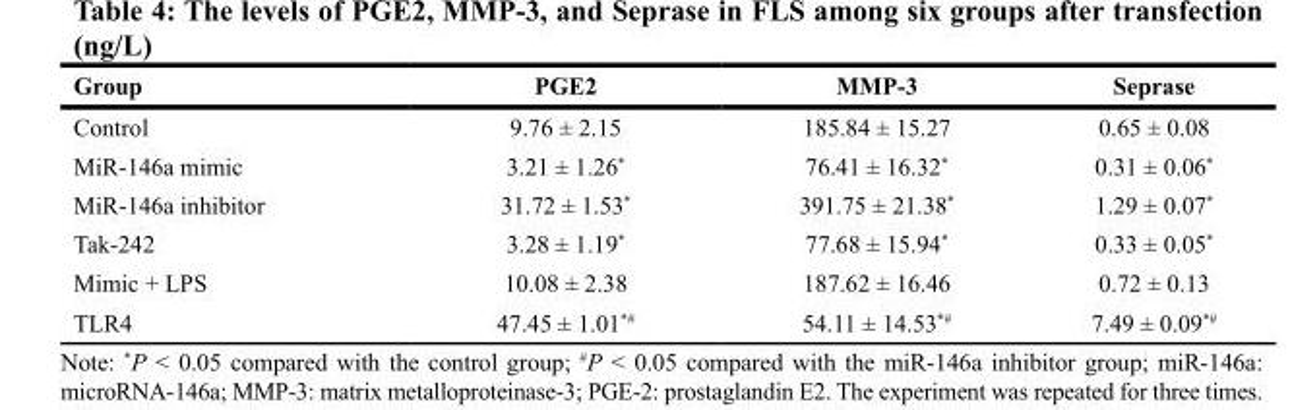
<table><thead><tr><td>Group</td><td>PGE2</td><td>MMP-3</td><td>Seprase</td></tr></thead><tbody><tr><td>Control</td><td>9.76 ± 2.15</td><td>185.84 ± 15.27</td><td>0.65 ± 0.08</td></tr><tr><td>MiR-146a mimic</td><td>3.21 ± 1.26*</td><td>76.41 ± 16.32*</td><td>0.31 ± 0.06*</td></tr><tr><td>MiR-146a inhibitor</td><td>31.72 ± 1.53*</td><td>391.75 ± 21.38*</td><td>1.29 ± 0.07*</td></tr><tr><td>Tak-242</td><td>3.28 ± 1.19*</td><td>77.68 ± 15.94*</td><td>0.33 ± 0.05*</td></tr><tr><td>Mimic + LPS</td><td>10.08 ± 2.38</td><td>187.62 ± 16.46</td><td>0.72 ± 0.13</td></tr><tr><td>TLR4</td><td>47.45 ± 1.01<sup>*#</sup></td><td>54.11 ± 14.53<sup>*#</sup></td><td>7.49 ± 0.09<sup>*#</sup></td></tr></tbody></table>